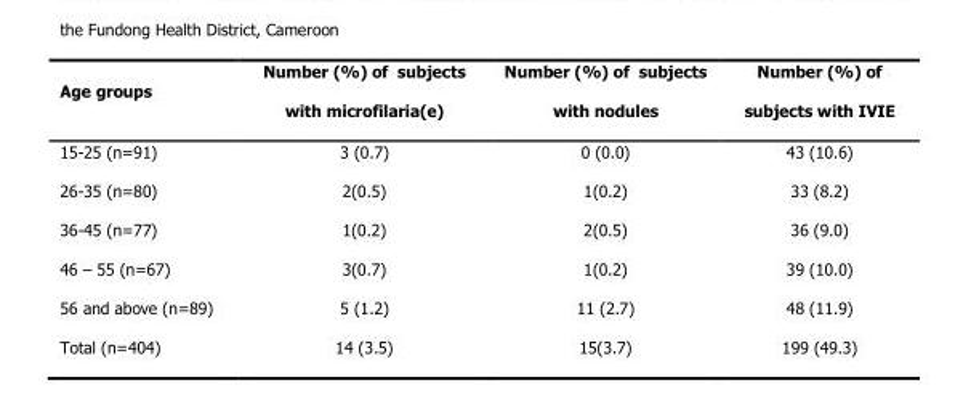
<table><thead><tr><td>Age groups</td><td>Number (%) of subjects with microfilaria(e)</td><td>Number (%) of subjects with nodules</td><td>Number (%) of subjects with IVIE</td></tr></thead><tbody><tr><td>15-25 (n=91)</td><td>3 (0.7)</td><td>0 (0.0)</td><td>43 (10.6)</td></tr><tr><td>26-35 (n=80)</td><td>2(0.5)</td><td>1(0.2)</td><td>33 (8.2)</td></tr><tr><td>36-45 (n=77)</td><td>1(0.2)</td><td>2(0.5)</td><td>36 (9.0)</td></tr><tr><td>46 – 55 (n=67)</td><td>3(0.7)</td><td>1(0.2)</td><td>39 (10.0)</td></tr><tr><td>56 and above (n=89)</td><td>5 (1.2)</td><td>11 (2.7)</td><td>48 (11.9)</td></tr><tr><td>Total (n=404)</td><td>14 (3.5)</td><td>15(3.7)</td><td>199 (49.3)</td></tr></tbody></table>